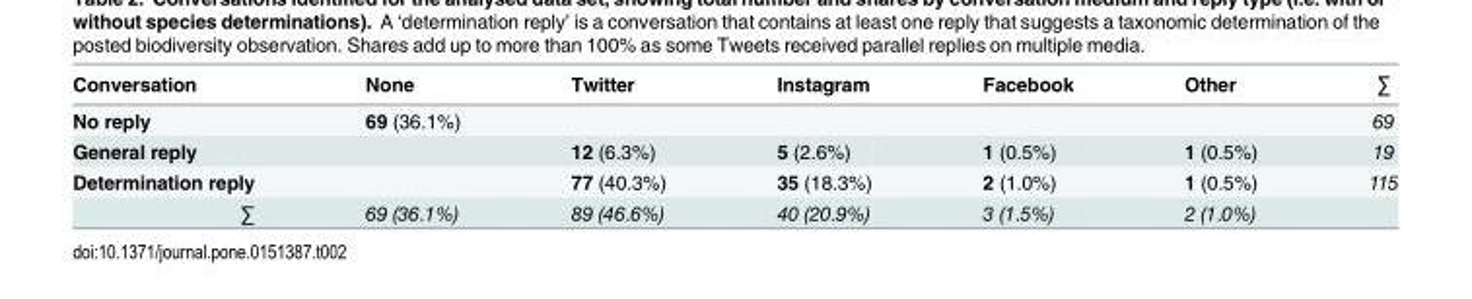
<table><thead><tr><td>Conversation</td><td>None</td><td>Twitter</td><td>Instagram</td><td>Facebook</td><td>Other</td><td>∑</td></tr></thead><tbody><tr><td>No reply</td><td>69 (36.1%)</td><td></td><td></td><td></td><td></td><td>69</td></tr><tr><td>General reply</td><td></td><td>12 (6.3%)</td><td>5 (2.6%)</td><td>1 (0.5%)</td><td>1 (0.5%)</td><td>19</td></tr><tr><td>Determination reply</td><td></td><td>77 (40.3%)</td><td>35 (18.3%)</td><td>2 (1.0%)</td><td>1 (0.5%)</td><td>115</td></tr><tr><td>∑</td><td>69 (36.1%)</td><td>89 (46.6%)</td><td>40 (20.9%)</td><td>3 (1.5%)</td><td>2 (1.0%)</td><td></td></tr></tbody></table>